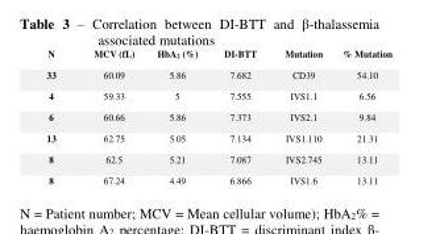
<table><thead><tr><td>N</td><td>MCV (fL)</td><td>HbA<sub>2</sub> (%)</td><td>DI-BTT</td><td>Mutation</td><td>% Mutation</td></tr></thead><tbody><tr><td>33</td><td>60.09</td><td>5.86</td><td>7.682</td><td>CD39</td><td>54.10</td></tr><tr><td>4</td><td>59.33</td><td>5</td><td>7.555</td><td>IVS1.1</td><td>6.56</td></tr><tr><td>6</td><td>60.66</td><td>5.86</td><td>7.373</td><td>IVS2.1</td><td>9.84</td></tr><tr><td>13</td><td>62.75</td><td>5.05</td><td>7.134</td><td>IVS1.110</td><td>21.31</td></tr><tr><td>8</td><td>62.5</td><td>5.21</td><td>7.087</td><td>IVS2.745</td><td>13.11</td></tr><tr><td>8</td><td>67.24</td><td>4.49</td><td>6.866</td><td>IVS1.6</td><td>13.11</td></tr></tbody></table>